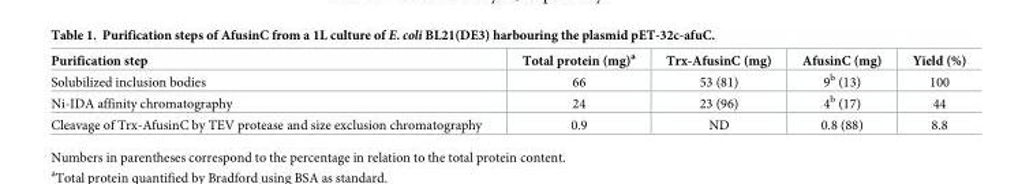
<table><thead><tr><td>Purification step</td><td>Total protein (mg)<sup>a</sup></td><td>Trx-AfusinC (mg)</td><td>AfusinC (mg)</td><td>Yield (%)</td></tr></thead><tbody><tr><td>Solubilized inclusion bodies</td><td>66</td><td>53 (81)</td><td>9<sup>b</sup> (13)</td><td>100</td></tr><tr><td>Ni-IDA affinity chromatography</td><td>24</td><td>23 (96)</td><td>4<sup>b</sup> (17)</td><td>44</td></tr><tr><td>Cleavage of Trx-AfusinC by TEV protease and size exclusion chromatography</td><td>0.9</td><td>ND</td><td>0.8 (88)</td><td>8.8</td></tr></tbody></table>